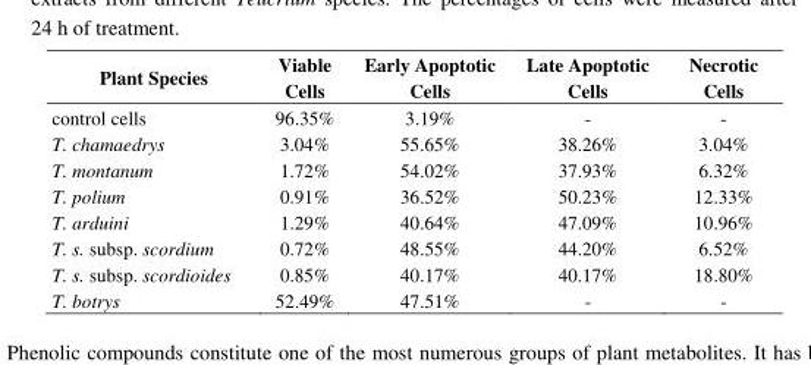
<table><thead><tr><td>Plant Species</td><td>Viable Cells</td><td>Early Apoptotic Cells</td><td>Late Apoptotic Cells</td><td>Necrotic Cells</td></tr></thead><tbody><tr><td>control cells</td><td>96.35%</td><td>3.19%</td><td>-</td><td>-</td></tr><tr><td>T. chamaedrys</td><td>3.04%</td><td>55.65%</td><td>38.26%</td><td>3.04%</td></tr><tr><td>T. montanum</td><td>1.72%</td><td>54.02%</td><td>37.93%</td><td>6.32%</td></tr><tr><td>T. polium</td><td>0.91%</td><td>36.52%</td><td>50.23%</td><td>12.33%</td></tr><tr><td>T. arduini</td><td>1.29%</td><td>40.64%</td><td>47.09%</td><td>10.96%</td></tr><tr><td>T. s. subsp. scordium</td><td>0.72%</td><td>48.55%</td><td>44.20%</td><td>6.52%</td></tr><tr><td>T. s. subsp. scordioides</td><td>0.85%</td><td>40.17%</td><td>40.17%</td><td>18.80%</td></tr><tr><td>T. botrys</td><td>52.49%</td><td>47.51%</td><td>-</td><td>-</td></tr></tbody></table>